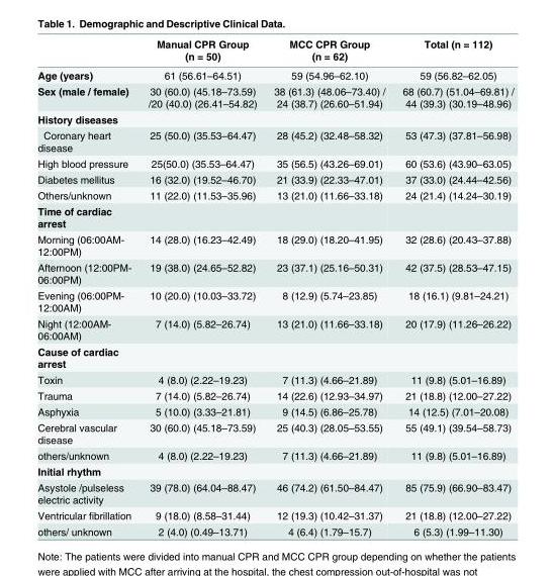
<table><thead><tr><td></td><td>Manual CPR Group (n = 50)</td><td>MCC CPR Group (n = 62)</td><td>Total (n = 112)</td></tr></thead><tbody><tr><td>Age (years)</td><td>61 (56.61–64.51)</td><td>59 (54.96–62.10)</td><td>59 (56.82–62.05)</td></tr><tr><td>Sex (male / female)</td><td>30 (60.0) (45.18–73.59) /20 (40.0) (26.41–54.82)</td><td>38 (61.3) (48.06–73.40) / 24 (38.7) (26.60–51.94)</td><td>68 (60.7) (51.04–69.81) / 44 (39.3) (30.19–48.96)</td></tr><tr><td colspan="4">History diseases</td></tr><tr><td>Coronary heart disease</td><td>25 (50.0) (35.53–64.47)</td><td>28 (45.2) (32.48–58.32)</td><td>53 (47.3) (37.81–56.98)</td></tr><tr><td>High blood pressure</td><td>25(50.0) (35.53–64.47)</td><td>35 (56.5) (43.26–69.01)</td><td>60 (53.6) (43.90–63.05)</td></tr><tr><td>Diabetes mellitus</td><td>16 (32.0) (19.52–46.70)</td><td>21 (33.9) (22.33–47.01)</td><td>37 (33.0) (24.44–42.56)</td></tr><tr><td>Others/unknown</td><td>11 (22.0) (11.53–35.96)</td><td>13 (21.0) (11.66–33.18)</td><td>24 (21.4) (14.24–30.19)</td></tr><tr><td colspan="4">Time of cardiac arrest</td></tr><tr><td>Morning (06:00AM- 12:00PM)</td><td>14 (28.0) (16.23–42.49)</td><td>18 (29.0) (18.20–41.95)</td><td>32 (28.6) (20.43–37.88)</td></tr><tr><td>Afternoon (12:00PM- 06:00PM)</td><td>19 (38.0) (24.65–52.82)</td><td>23 (37.1) (25.16–50.31)</td><td>42 (37.5) (28.53–47.15)</td></tr><tr><td>Evening (06:00PM- 12:00AM)</td><td>10 (20.0) (10.03–33.72)</td><td>8 (12.9) (5.74–23.85)</td><td>18 (16.1) (9.81–24.21)</td></tr><tr><td>Night (12:00AM- 06:00AM)</td><td>7 (14.0) (5.82–26.74)</td><td>13 (21.0) (11.66–33.18)</td><td>20 (17.9) (11.26–26.22)</td></tr><tr><td colspan="4">Cause of cardiac arrest</td></tr><tr><td>Toxin</td><td>4 (8.0) (2.22–19.23)</td><td>7 (11.3) (4.66–21.89)</td><td>11 (9.8) (5.01–16.89)</td></tr><tr><td>Trauma</td><td>7 (14.0) (5.82–26.74)</td><td>14 (22.6) (12.93–34.97)</td><td>21 (18.8) (12.00–27.22)</td></tr><tr><td>Asphyxia</td><td>5 (10.0) (3.33–21.81)</td><td>9 (14.5) (6.86–25.78)</td><td>14 (12.5) (7.01–20.08)</td></tr><tr><td>Cerebral vascular disease</td><td>30 (60.0) (45.18–73.59)</td><td>25 (40.3) (28.05–53.55)</td><td>55 (49.1) (39.54–58.73)</td></tr><tr><td>others/unknown</td><td>4 (8.0) (2.22–19.23)</td><td>7 (11.3) (4.66–21.89)</td><td>11 (9.8) (5.01–16.89)</td></tr><tr><td colspan="4">Initial rhythm</td></tr><tr><td>Asystole /pulseless electric activity</td><td>39 (78.0) (64.04–88.47)</td><td>46 (74.2) (61.50–84.47)</td><td>85 (75.9) (66.90–83.47)</td></tr><tr><td>Ventricular fibrillation</td><td>9 (18.0) (8.58–31.44)</td><td>12 (19.3) (10.42–31.37)</td><td>21 (18.8) (12.00–27.22)</td></tr><tr><td>others/ unknown</td><td>2 (4.0) (0.49–13.71)</td><td>4 (6.4) (1.79–15.7)</td><td>6 (5.3) (1.99–11.30)</td></tr></tbody></table>